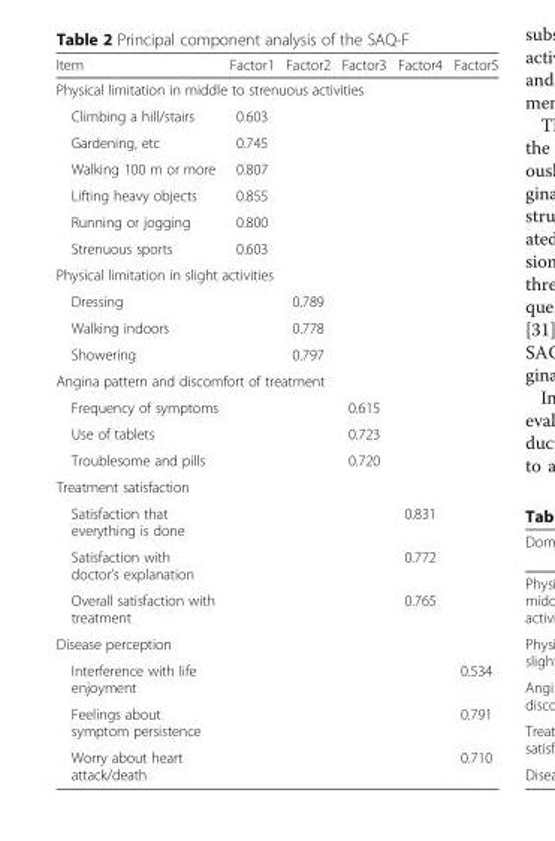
<table><thead><tr><td>Item</td><td>Factor1</td><td>Factor2</td><td>Factor3</td><td>Factor4</td><td>Factor5</td></tr></thead><tbody><tr><td colspan="6">Physical limitation in middle to strenuous activities</td></tr><tr><td>Climbing a hill/stairs</td><td>0.603</td><td></td><td></td><td></td><td></td></tr><tr><td>Gardening, etc</td><td>0.745</td><td></td><td></td><td></td><td></td></tr><tr><td>Walking 100 m or more</td><td>0.807</td><td></td><td></td><td></td><td></td></tr><tr><td>Lifting heavy objects</td><td>0.855</td><td></td><td></td><td></td><td></td></tr><tr><td>Running or jogging</td><td>0.800</td><td></td><td></td><td></td><td></td></tr><tr><td>Strenuous sports</td><td>0.603</td><td></td><td></td><td></td><td></td></tr><tr><td colspan="6">Physical limitation in slight activities</td></tr><tr><td>Dressing</td><td></td><td>0.789</td><td></td><td></td><td></td></tr><tr><td>Walking indoors</td><td></td><td>0.778</td><td></td><td></td><td></td></tr><tr><td>Showering</td><td></td><td>0.797</td><td></td><td></td><td></td></tr><tr><td colspan="6">Angina pattern and discomfort of treatment</td></tr><tr><td>Frequency of symptoms</td><td></td><td></td><td>0.615</td><td></td><td></td></tr><tr><td>Use of tablets</td><td></td><td></td><td>0.723</td><td></td><td></td></tr><tr><td>Troublesome and pills</td><td></td><td></td><td>0.720</td><td></td><td></td></tr><tr><td colspan="6">Treatment satisfaction</td></tr><tr><td>Satisfaction that everything is done</td><td></td><td></td><td></td><td>0.831</td><td></td></tr><tr><td>Satisfaction with doctor’s explanation</td><td></td><td></td><td></td><td>0.772</td><td></td></tr><tr><td>Overall satisfaction with treatment</td><td></td><td></td><td></td><td>0.765</td><td></td></tr><tr><td colspan="6">Disease perception</td></tr><tr><td>Interference with life enjoyment</td><td></td><td></td><td></td><td></td><td>0.534</td></tr><tr><td>Feelings about symptom persistence</td><td></td><td></td><td></td><td></td><td>0.791</td></tr><tr><td>Worry about heart attack/death</td><td></td><td></td><td></td><td></td><td>0.710</td></tr></tbody></table>